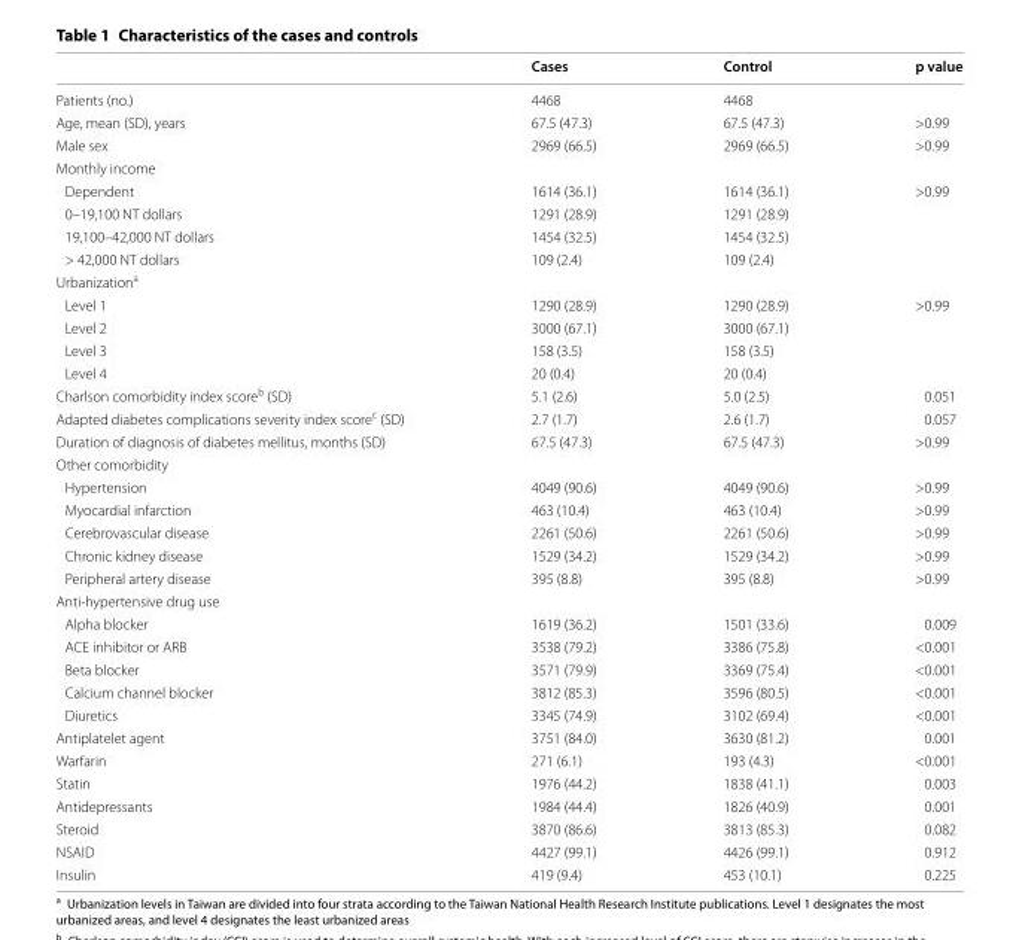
<table><thead><tr><td></td><td>Cases</td><td>Control</td><td>p value</td></tr></thead><tbody><tr><td>Patients (no.)</td><td>4468</td><td>4468</td><td></td></tr><tr><td>Age, mean (SD), years</td><td>67.5 (47.3)</td><td>67.5 (47.3)</td><td>&gt;0.99</td></tr><tr><td>Male sex</td><td>2969 (66.5)</td><td>2969 (66.5)</td><td>&gt;0.99</td></tr><tr><td colspan="4">Monthly income</td></tr><tr><td>Dependent</td><td>1614 (36.1)</td><td>1614 (36.1)</td><td>&gt;0.99</td></tr><tr><td>0–19,100 NT dollars</td><td>1291 (28.9)</td><td>1291 (28.9)</td><td></td></tr><tr><td>19,100–42,000 NT dollars</td><td>1454 (32.5)</td><td>1454 (32.5)</td><td></td></tr><tr><td>&gt; 42,000 NT dollars</td><td>109 (2.4)</td><td>109 (2.4)</td><td></td></tr><tr><td colspan="4">Urbanization<sup>a</sup></td></tr><tr><td>Level 1</td><td>1290 (28.9)</td><td>1290 (28.9)</td><td>&gt;0.99</td></tr><tr><td>Level 2</td><td>3000 (67.1)</td><td>3000 (67.1)</td><td></td></tr><tr><td>Level 3</td><td>158 (3.5)</td><td>158 (3.5)</td><td></td></tr><tr><td>Level 4</td><td>20 (0.4)</td><td>20 (0.4)</td><td></td></tr><tr><td>Charlson comorbidity index score<sup>b</sup> (SD)</td><td>5.1 (2.6)</td><td>5.0 (2.5)</td><td>0.051</td></tr><tr><td>Adapted diabetes complications severity index score<sup>c</sup> (SD)</td><td>2.7 (1.7)</td><td>2.6 (1.7)</td><td>0.057</td></tr><tr><td>Duration of diagnosis of diabetes mellitus, months (SD)</td><td>67.5 (47.3)</td><td>67.5 (47.3)</td><td>&gt;0.99</td></tr><tr><td colspan="4">Other comorbidity</td></tr><tr><td>Hypertension</td><td>4049 (90.6)</td><td>4049 (90.6)</td><td>&gt;0.99</td></tr><tr><td>Myocardial infarction</td><td>463 (10.4)</td><td>463 (10.4)</td><td>&gt;0.99</td></tr><tr><td>Cerebrovascular disease</td><td>2261 (50.6)</td><td>2261 (50.6)</td><td>&gt;0.99</td></tr><tr><td>Chronic kidney disease</td><td>1529 (34.2)</td><td>1529 (34.2)</td><td>&gt;0.99</td></tr><tr><td>Peripheral artery disease</td><td>395 (8.8)</td><td>395 (8.8)</td><td>&gt;0.99</td></tr><tr><td colspan="4">Anti‑hypertensive drug use</td></tr><tr><td>Alpha blocker</td><td>1619 (36.2)</td><td>1501 (33.6)</td><td>0.009</td></tr><tr><td>ACE inhibitor or ARB</td><td>3538 (79.2)</td><td>3386 (75.8)</td><td>&lt;0.001</td></tr><tr><td>Beta blocker</td><td>3571 (79.9)</td><td>3369 (75.4)</td><td>&lt;0.001</td></tr><tr><td>Calcium channel blocker</td><td>3812 (85.3)</td><td>3596 (80.5)</td><td>&lt;0.001</td></tr><tr><td>Diuretics</td><td>3345 (74.9)</td><td>3102 (69.4)</td><td>&lt;0.001</td></tr><tr><td>Antiplatelet agent</td><td>3751 (84.0)</td><td>3630 (81.2)</td><td>0.001</td></tr><tr><td>Warfarin</td><td>271 (6.1)</td><td>193 (4.3)</td><td>&lt;0.001</td></tr><tr><td>Statin</td><td>1976 (44.2)</td><td>1838 (41.1)</td><td>0.003</td></tr><tr><td>Antidepressants</td><td>1984 (44.4)</td><td>1826 (40.9)</td><td>0.001</td></tr><tr><td>Steroid</td><td>3870 (86.6)</td><td>3813 (85.3)</td><td>0.082</td></tr><tr><td>NSAID</td><td>4427 (99.1)</td><td>4426 (99.1)</td><td>0.912</td></tr><tr><td>Insulin</td><td>419 (9.4)</td><td>453 (10.1)</td><td>0.225</td></tr></tbody></table>